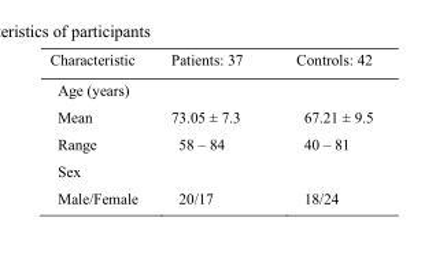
<table><thead><tr><td>Characteristic</td><td>Patients: 37</td><td>Controls: 42</td></tr></thead><tbody><tr><td colspan="3">Age (years)</td></tr><tr><td>Mean</td><td>73.05 ± 7.3</td><td>67.21 ± 9.5</td></tr><tr><td>Range</td><td>58 – 84</td><td>40 – 81</td></tr><tr><td colspan="3">Sex</td></tr><tr><td>Male/Female</td><td>20/17</td><td>18/24</td></tr></tbody></table>